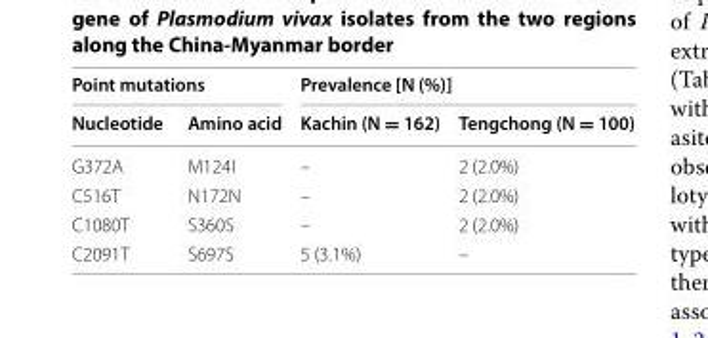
<table><thead><tr><td colspan="2">Point mutations</td><td colspan="2">Prevalence [N (%)]</td></tr><tr><td>Nucleotide</td><td>Amino acid</td><td>Kachin (N = 162)</td><td>Tengchong (N = 100)</td></tr></thead><tbody><tr><td>G372A</td><td>M124I</td><td>–</td><td>2 (2.0%)</td></tr><tr><td>C516T</td><td>N172N</td><td>–</td><td>2 (2.0%)</td></tr><tr><td>C1080T</td><td>S360S</td><td>–</td><td>2 (2.0%)</td></tr><tr><td>C2091T</td><td>S697S</td><td>5 (3.1%)</td><td>–</td></tr></tbody></table>